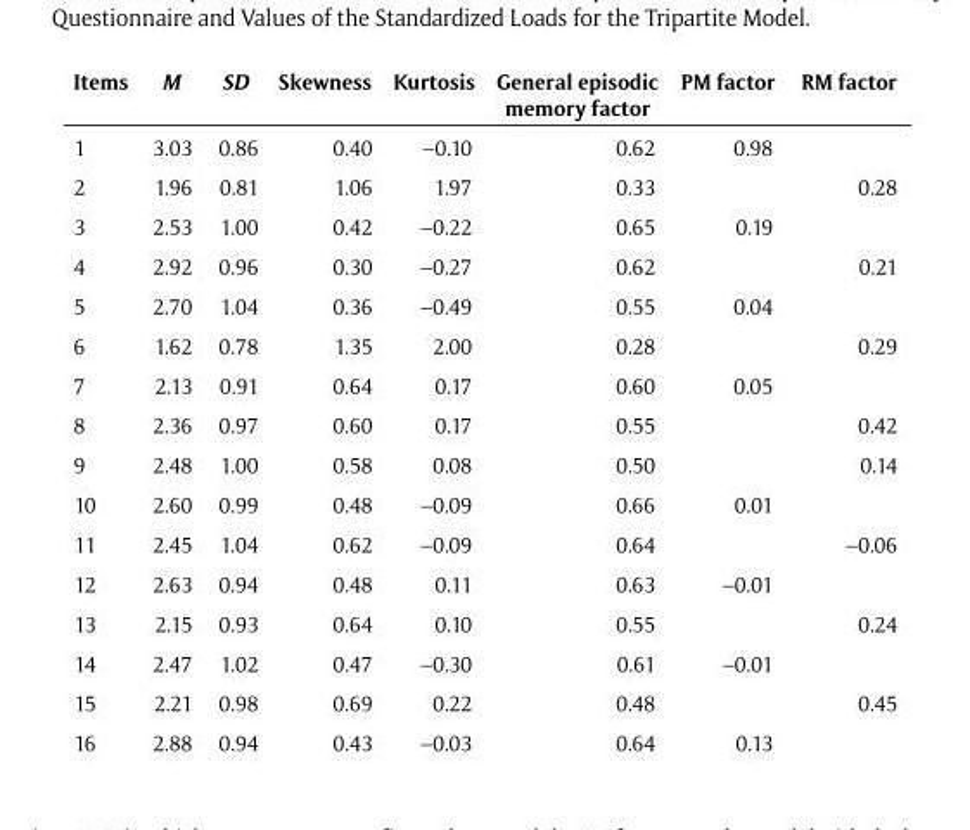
<table><thead><tr><td>Items</td><td>M</td><td>SD</td><td>Skewness</td><td>Kurtosis</td><td>General episodic memory factor</td><td>PM factor</td><td>RM factor</td></tr></thead><tbody><tr><td>1</td><td>3.03</td><td>0.86</td><td>0.40</td><td>–0.10</td><td>0.62</td><td>0.98</td><td></td></tr><tr><td>2</td><td>1.96</td><td>0.81</td><td>1.06</td><td>1.97</td><td>0.33</td><td></td><td>0.28</td></tr><tr><td>3</td><td>2.53</td><td>1.00</td><td>0.42</td><td>–0.22</td><td>0.65</td><td>0.19</td><td></td></tr><tr><td>4</td><td>2.92</td><td>0.96</td><td>0.30</td><td>–0.27</td><td>0.62</td><td></td><td>0.21</td></tr><tr><td>5</td><td>2.70</td><td>1.04</td><td>0.36</td><td>–0.49</td><td>0.55</td><td>0.04</td><td></td></tr><tr><td>6</td><td>1.62</td><td>0.78</td><td>1.35</td><td>2.00</td><td>0.28</td><td></td><td>0.29</td></tr><tr><td>7</td><td>2.13</td><td>0.91</td><td>0.64</td><td>0.17</td><td>0.60</td><td>0.05</td><td></td></tr><tr><td>8</td><td>2.36</td><td>0.97</td><td>0.60</td><td>0.17</td><td>0.55</td><td></td><td>0.42</td></tr><tr><td>9</td><td>2.48</td><td>1.00</td><td>0.58</td><td>0.08</td><td>0.50</td><td></td><td>0.14</td></tr><tr><td>10</td><td>2.60</td><td>0.99</td><td>0.48</td><td>–0.09</td><td>0.66</td><td>0.01</td><td></td></tr><tr><td>11</td><td>2.45</td><td>1.04</td><td>0.62</td><td>–0.09</td><td>0.64</td><td></td><td>–0.06</td></tr><tr><td>12</td><td>2.63</td><td>0.94</td><td>0.48</td><td>0.11</td><td>0.63</td><td>–0.01</td><td></td></tr><tr><td>13</td><td>2.15</td><td>0.93</td><td>0.64</td><td>0.10</td><td>0.55</td><td></td><td>0.24</td></tr><tr><td>14</td><td>2.47</td><td>1.02</td><td>0.47</td><td>–0.30</td><td>0.61</td><td>–0.01</td><td></td></tr><tr><td>15</td><td>2.21</td><td>0.98</td><td>0.69</td><td>0.22</td><td>0.48</td><td></td><td>0.45</td></tr><tr><td>16</td><td>2.88</td><td>0.94</td><td>0.43</td><td>–0.03</td><td>0.64</td><td>0.13</td><td></td></tr></tbody></table>